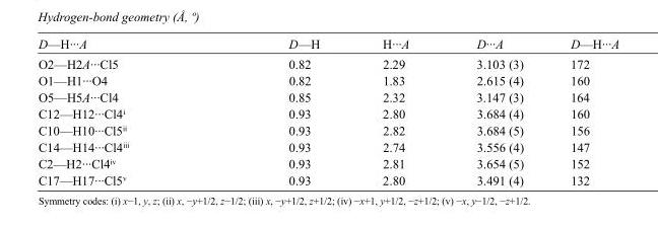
<table><tbody><tr><td>D—H···A</td><td>D—H</td><td>H···A</td><td>D···A</td><td>D—H···A</td></tr><tr><td>O2—H2A···Cl5</td><td>0.82</td><td>2.29</td><td>3.103 (3)</td><td>172</td></tr><tr><td>O1—H1···O4</td><td>0.82</td><td>1.83</td><td>2.615 (4)</td><td>160</td></tr><tr><td>O5—H5A···Cl4</td><td>0.85</td><td>2.32</td><td>3.147 (3)</td><td>164</td></tr><tr><td>C12—H12···Cl4<sup>i</sup></td><td>0.93</td><td>2.80</td><td>3.684 (4)</td><td>160</td></tr><tr><td>C10—H10···Cl5<sup>ii</sup></td><td>0.93</td><td>2.82</td><td>3.684 (5)</td><td>156</td></tr><tr><td>C14—H14···Cl4<sup>iii</sup></td><td>0.93</td><td>2.74</td><td>3.556 (4)</td><td>147</td></tr><tr><td>C2—H2···Cl4<sup>iv</sup></td><td>0.93</td><td>2.81</td><td>3.654 (5)</td><td>152</td></tr><tr><td>C17—H17···Cl5<sup>v</sup></td><td>0.93</td><td>2.80</td><td>3.491 (4)</td><td>132</td></tr></tbody></table>